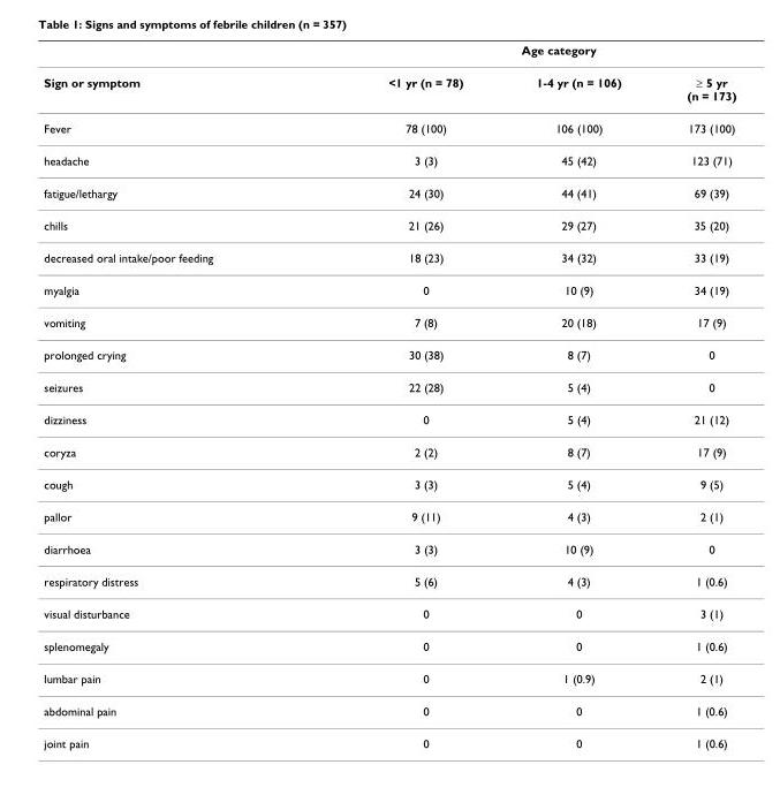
<table><thead><tr><td rowspan="2">Sign or symptom</td><td colspan="3">Age category</td></tr><tr><td>&lt;1 yr (n = 78)</td><td>1-4 yr (n = 106)</td><td>≥ 5 yr (n = 173)</td></tr></thead><tbody><tr><td>Fever</td><td>78 (100)</td><td>106 (100)</td><td>173 (100)</td></tr><tr><td>headache</td><td>3 (3)</td><td>45 (42)</td><td>123 (71)</td></tr><tr><td>fatigue/lethargy</td><td>24 (30)</td><td>44 (41)</td><td>69 (39)</td></tr><tr><td>chills</td><td>21 (26)</td><td>29 (27)</td><td>35 (20)</td></tr><tr><td>decreased oral intake/poor feeding</td><td>18 (23)</td><td>34 (32)</td><td>33 (19)</td></tr><tr><td>myalgia</td><td>0</td><td>10 (9)</td><td>34 (19)</td></tr><tr><td>vomiting</td><td>7 (8)</td><td>20 (18)</td><td>17 (9)</td></tr><tr><td>prolonged crying</td><td>30 (38)</td><td>8 (7)</td><td>0</td></tr><tr><td>seizures</td><td>22 (28)</td><td>5 (4)</td><td>0</td></tr><tr><td>dizziness</td><td>0</td><td>5 (4)</td><td>21 (12)</td></tr><tr><td>coryza</td><td>2 (2)</td><td>8 (7)</td><td>17 (9)</td></tr><tr><td>cough</td><td>3 (3)</td><td>5 (4)</td><td>9 (5)</td></tr><tr><td>pallor</td><td>9 (11)</td><td>4 (3)</td><td>2 (1)</td></tr><tr><td>diarrhoea</td><td>3 (3)</td><td>10 (9)</td><td>0</td></tr><tr><td>respiratory distress</td><td>5 (6)</td><td>4 (3)</td><td>1 (0.6)</td></tr><tr><td>visual disturbance</td><td>0</td><td>0</td><td>3 (1)</td></tr><tr><td>splenomegaly</td><td>0</td><td>0</td><td>1 (0.6)</td></tr><tr><td>lumbar pain</td><td>0</td><td>1 (0.9)</td><td>2 (1)</td></tr><tr><td>abdominal pain</td><td>0</td><td>0</td><td>1 (0.6)</td></tr><tr><td>joint pain</td><td>0</td><td>0</td><td>1 (0.6)</td></tr></tbody></table>